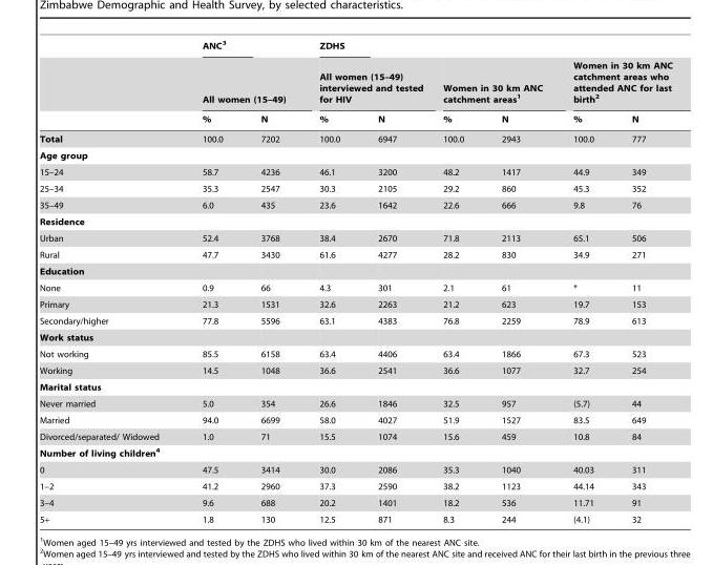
<table><thead><tr><td rowspan="3"></td><td>ANC<sup>3</sup></td><td></td><td>ZDHS</td><td></td><td></td><td></td><td></td><td></td></tr><tr><td colspan="2">All women (15–49)</td><td colspan="2">All women (15–49) interviewed and tested for HIV</td><td colspan="2">Women in 30 km ANC catchment areas<sup>1</sup></td><td colspan="2">Women in 30 km ANC catchment areas who attended ANC for last birth<sup>2</sup></td></tr><tr><td>%</td><td>N</td><td>%</td><td>N</td><td>%</td><td>N</td><td>%</td><td>N</td></tr></thead><tbody><tr><td>Total</td><td>100.0</td><td>7202</td><td>100.0</td><td>6947</td><td>100.0</td><td>2943</td><td>100.0</td><td>777</td></tr><tr><td colspan="9">Age group</td></tr><tr><td>15–24</td><td>58.7</td><td>4236</td><td>46.1</td><td>3200</td><td>48.2</td><td>1417</td><td>44.9</td><td>349</td></tr><tr><td>25–34</td><td>35.3</td><td>2547</td><td>30.3</td><td>2105</td><td>29.2</td><td>860</td><td>45.3</td><td>352</td></tr><tr><td>35–49</td><td>6.0</td><td>435</td><td>23.6</td><td>1642</td><td>22.6</td><td>666</td><td>9.8</td><td>76</td></tr><tr><td colspan="9">Residence</td></tr><tr><td>Urban</td><td>52.4</td><td>3768</td><td>38.4</td><td>2670</td><td>71.8</td><td>2113</td><td>65.1</td><td>506</td></tr><tr><td>Rural</td><td>47.7</td><td>3430</td><td>61.6</td><td>4277</td><td>28.2</td><td>830</td><td>34.9</td><td>271</td></tr><tr><td colspan="9">Education</td></tr><tr><td>None</td><td>0.9</td><td>66</td><td>4.3</td><td>301</td><td>2.1</td><td>61</td><td>*</td><td>11</td></tr><tr><td>Primary</td><td>21.3</td><td>1531</td><td>32.6</td><td>2263</td><td>21.2</td><td>623</td><td>19.7</td><td>153</td></tr><tr><td>Secondary/higher</td><td>77.8</td><td>5596</td><td>63.1</td><td>4383</td><td>76.8</td><td>2259</td><td>78.9</td><td>613</td></tr><tr><td colspan="9">Work status</td></tr><tr><td>Not working</td><td>85.5</td><td>6158</td><td>63.4</td><td>4406</td><td>63.4</td><td>1866</td><td>67.3</td><td>523</td></tr><tr><td>Working</td><td>14.5</td><td>1048</td><td>36.6</td><td>2541</td><td>36.6</td><td>1077</td><td>32.7</td><td>254</td></tr><tr><td colspan="9">Marital status</td></tr><tr><td>Never married</td><td>5.0</td><td>354</td><td>26.6</td><td>1846</td><td>32.5</td><td>957</td><td>(5.7)</td><td>44</td></tr><tr><td>Married</td><td>94.0</td><td>6699</td><td>58.0</td><td>4027</td><td>51.9</td><td>1527</td><td>83.5</td><td>649</td></tr><tr><td>Divorced/separated/ Widowed</td><td>1.0</td><td>71</td><td>15.5</td><td>1074</td><td>15.6</td><td>459</td><td>10.8</td><td>84</td></tr><tr><td colspan="9">Number of living children4</td></tr><tr><td>0</td><td>47.5</td><td>3414</td><td>30.0</td><td>2086</td><td>35.3</td><td>1040</td><td>40.03</td><td>311</td></tr><tr><td>1–2</td><td>41.2</td><td>2960</td><td>37.3</td><td>2590</td><td>38.2</td><td>1123</td><td>44.14</td><td>343</td></tr><tr><td>3–4</td><td>9.6</td><td>688</td><td>20.2</td><td>1401</td><td>18.2</td><td>536</td><td>11.71</td><td>91</td></tr><tr><td>5+</td><td>1.8</td><td>130</td><td>12.5</td><td>871</td><td>8.3</td><td>244</td><td>(4.1)</td><td>32</td></tr></tbody></table>